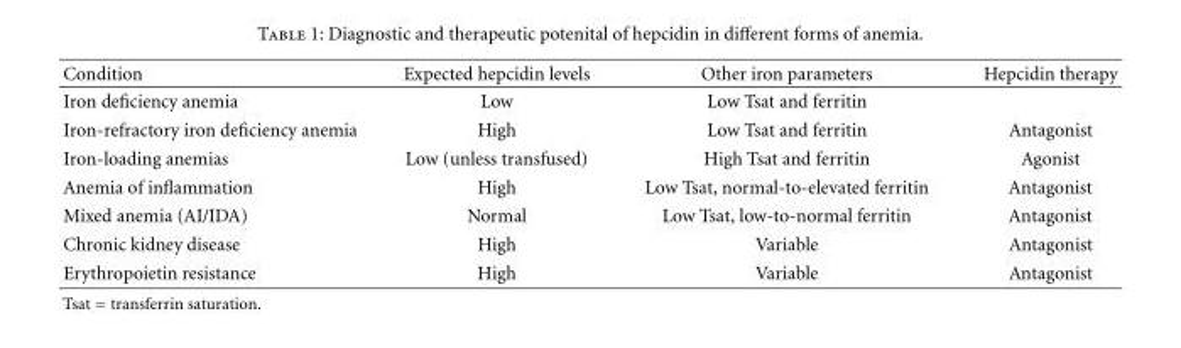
<table><thead><tr><td>Condition</td><td>Expected hepcidin levels</td><td>Other iron parameters</td><td>Hepcidin therapy</td></tr></thead><tbody><tr><td>Iron deficiency anemia</td><td>Low</td><td>Low Tsat and ferritin</td><td></td></tr><tr><td>Iron-refractory iron deficiency anemia</td><td>High</td><td>Low Tsat and ferritin</td><td>Antagonist</td></tr><tr><td>Iron-loading anemias</td><td>Low (unless transfused)</td><td>High Tsat and ferritin</td><td>Agonist</td></tr><tr><td>Anemia of inflammation</td><td>High</td><td>Low Tsat, normal-to-elevated ferritin</td><td>Antagonist</td></tr><tr><td>Mixed anemia (AI/IDA)</td><td>Normal</td><td>Low Tsat, low-to-normal ferritin</td><td>Antagonist</td></tr><tr><td>Chronic kidney disease</td><td>High</td><td>Variable</td><td>Antagonist</td></tr><tr><td>Erythropoietin resistance</td><td>High</td><td>Variable</td><td>Antagonist</td></tr></tbody></table>